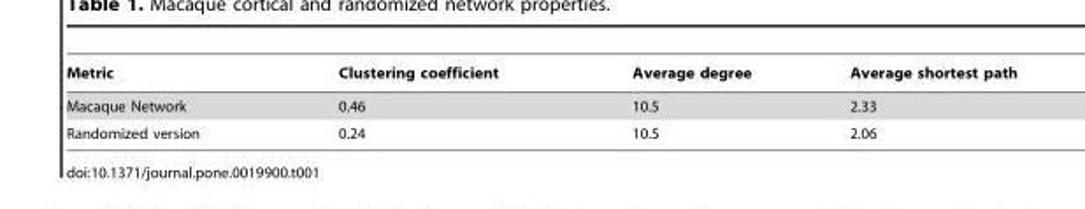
<table><thead><tr><td>Metric</td><td>Clustering coefficient</td><td>Average degree</td><td>Average shortest path</td></tr></thead><tbody><tr><td>Macaque Network</td><td>0.46</td><td>10.5</td><td>2.33</td></tr><tr><td>Randomized version</td><td>0.24</td><td>10.5</td><td>2.06</td></tr></tbody></table>